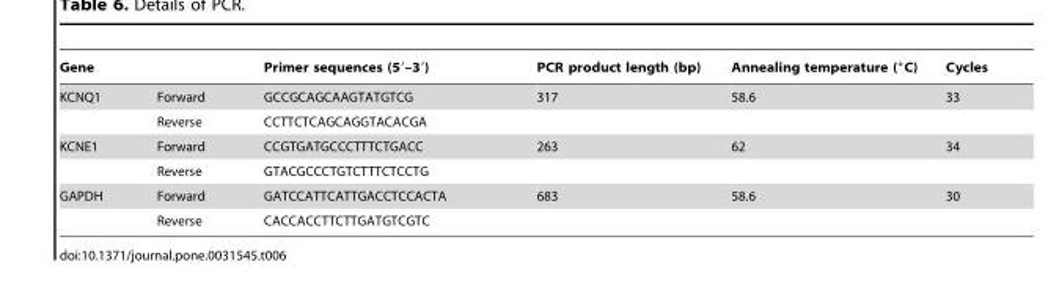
<table><thead><tr><td colspan="2">Gene</td><td rowspan="2">Primer sequences (5′–3′) GCCGCAGCAAGTATGTCG</td><td rowspan="2">PCR product length (bp) 317</td><td rowspan="2">Annealing temperature (°C) 58.6</td><td rowspan="2">Cycles 33</td></tr><tr><td>KCNQ1</td><td>Forward</td></tr></thead><tbody><tr><td></td><td>Reverse</td><td>CCTTCTCAGCAGGTACACGA</td><td></td><td></td><td></td></tr><tr><td rowspan="2">KCNE1</td><td>Forward</td><td>CCGTGATGCCCTTTCTGACC</td><td>263</td><td>62</td><td>34</td></tr><tr><td>Reverse</td><td>GTACGCCCTGTCTTTCTCCTG</td><td></td><td></td><td></td></tr><tr><td rowspan="2">GAPDH</td><td>Forward</td><td>GATCCATTCATTGACCTCCACTA</td><td>683</td><td>58.6</td><td>30</td></tr><tr><td>Reverse</td><td>CACCACCTTCTTGATGTCGTC</td><td></td><td></td><td></td></tr></tbody></table>